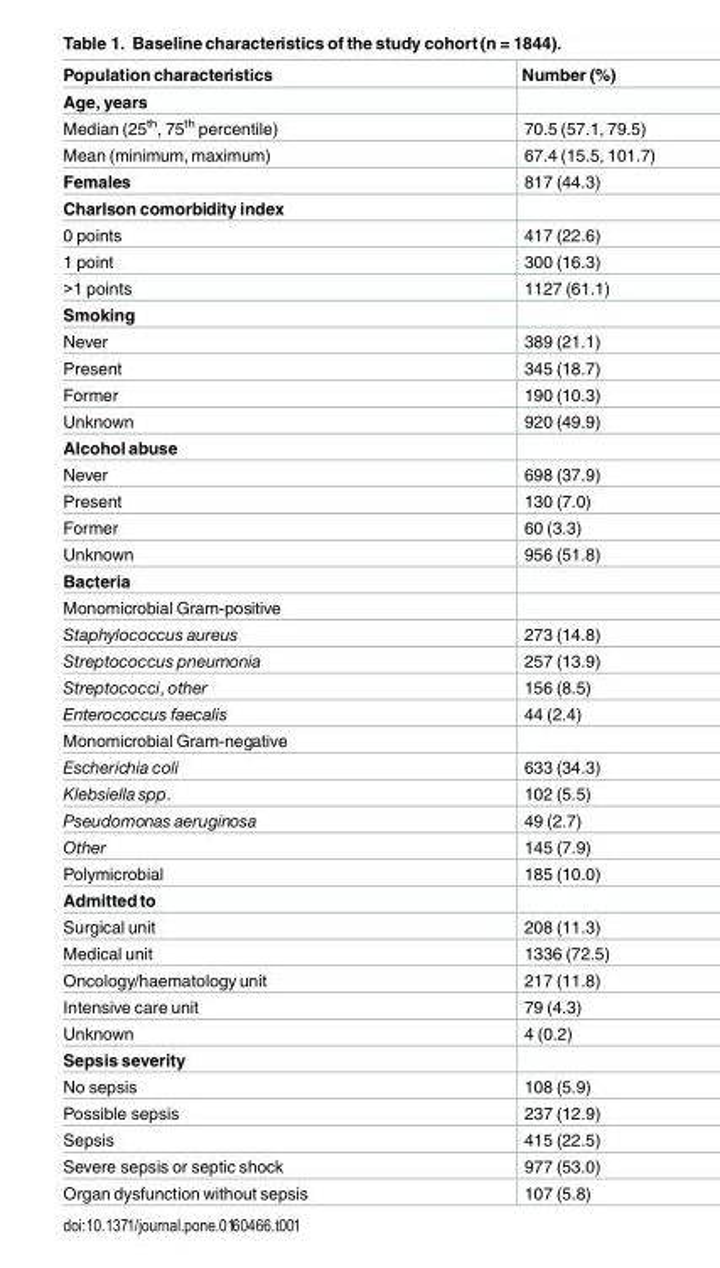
<table><thead><tr><td>Population characteristics</td><td>Number (%)</td></tr></thead><tbody><tr><td colspan="2">Age, years</td></tr><tr><td>Median (25<sup>th</sup>, 75<sup>th</sup> percentile)</td><td>70.5 (57.1, 79.5)</td></tr><tr><td>Mean (minimum, maximum)</td><td>67.4 (15.5, 101.7)</td></tr><tr><td>Females</td><td>817 (44.3)</td></tr><tr><td colspan="2">Charlson comorbidity index</td></tr><tr><td>0 points</td><td>417 (22.6)</td></tr><tr><td>1 point</td><td>300 (16.3)</td></tr><tr><td>&gt;1 points</td><td>1127 (61.1)</td></tr><tr><td colspan="2">Smoking</td></tr><tr><td>Never</td><td>389 (21.1)</td></tr><tr><td>Present</td><td>345 (18.7)</td></tr><tr><td>Former</td><td>190 (10.3)</td></tr><tr><td>Unknown</td><td>920 (49.9)</td></tr><tr><td colspan="2">Alcohol abuse</td></tr><tr><td>Never</td><td>698 (37.9)</td></tr><tr><td>Present</td><td>130 (7.0)</td></tr><tr><td>Former</td><td>60 (3.3)</td></tr><tr><td>Unknown</td><td>956 (51.8)</td></tr><tr><td colspan="2">Bacteria</td></tr><tr><td colspan="2">Monomicrobial Gram-positive</td></tr><tr><td>Staphylococcus aureus</td><td>273 (14.8)</td></tr><tr><td>Streptococcus pneumonia</td><td>257 (13.9)</td></tr><tr><td>Streptococci, other</td><td>156 (8.5)</td></tr><tr><td>Enterococcus faecalis</td><td>44 (2.4)</td></tr><tr><td colspan="2">Monomicrobial Gram-negative</td></tr><tr><td>Escherichia coli</td><td>633 (34.3)</td></tr><tr><td>Klebsiella spp.</td><td>102 (5.5)</td></tr><tr><td>Pseudomonas aeruginosa</td><td>49 (2.7)</td></tr><tr><td>Other</td><td>145 (7.9)</td></tr><tr><td>Polymicrobial</td><td>185 (10.0)</td></tr><tr><td colspan="2">Admitted to</td></tr><tr><td>Surgical unit</td><td>208 (11.3)</td></tr><tr><td>Medical unit</td><td>1336 (72.5)</td></tr><tr><td>Oncology/haematology unit</td><td>217 (11.8)</td></tr><tr><td>Intensive care unit</td><td>79 (4.3)</td></tr><tr><td>Unknown</td><td>4 (0.2)</td></tr><tr><td colspan="2">Sepsis severity</td></tr><tr><td>No sepsis</td><td>108 (5.9)</td></tr><tr><td>Possible sepsis</td><td>237 (12.9)</td></tr><tr><td>Sepsis</td><td>415 (22.5)</td></tr><tr><td>Severe sepsis or septic shock</td><td>977 (53.0)</td></tr><tr><td>Organ dysfunction without sepsis</td><td>107 (5.8)</td></tr></tbody></table>